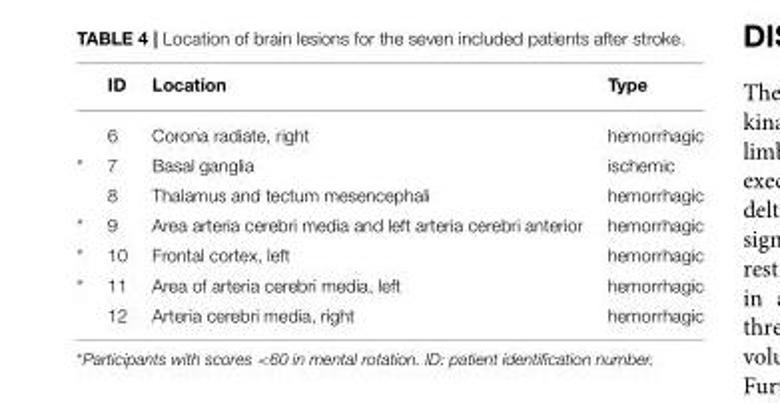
<table><thead><tr><td></td><td>ID</td><td>Location</td><td>Type</td></tr></thead><tbody><tr><td></td><td>6</td><td>Corona radiate, right</td><td>hemorrhagic</td></tr><tr><td rowspan="2">*</td><td>7</td><td>Basal ganglia</td><td>ischemic</td></tr><tr><td>8</td><td>Thalamus and tectum mesencephali</td><td>hemorrhagic</td></tr><tr><td>*</td><td>9</td><td>Area arteria cerebri media and left arteria cerebri anterior</td><td>hemorrhagic</td></tr><tr><td>*</td><td>10</td><td>Frontal cortex, left</td><td>hemorrhagic</td></tr><tr><td rowspan="2">*</td><td>11</td><td>Area of arteria cerebri media, left</td><td>hemorrhagic</td></tr><tr><td>12</td><td>Arteria cerebri media, right</td><td>hemorrhagic</td></tr></tbody></table>